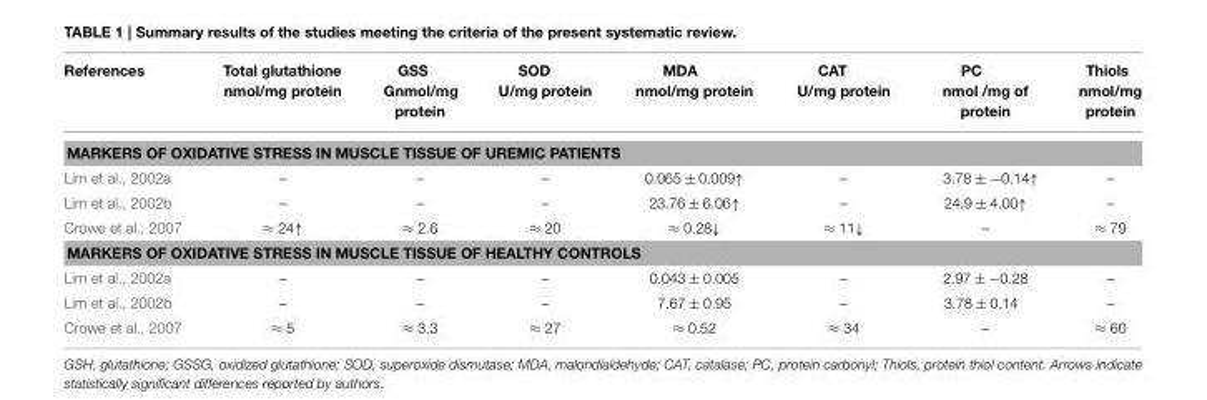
<table><thead><tr><td>References</td><td>Total glutathione nmol/mg protein</td><td>GSS Gnmol/mg protein</td><td>SOD U/mg protein</td><td>MDA nmol/mg protein</td><td>CAT U/mg protein</td><td>PC nmol /mg of protein</td><td>Thiols nmol/mg protein</td></tr></thead><tbody><tr><td colspan="8">MARKERS OF OXIDATIVE STRESS IN MUSCLE TISSUE OF UREMIC PATIENTS</td></tr><tr><td>Lim et al., 2002a</td><td>–</td><td>–</td><td>–</td><td>0.065 ± 0.009↑</td><td>–</td><td>3.78 ± −0.14↑</td><td>–</td></tr><tr><td>Lim et al., 2002b</td><td>–</td><td>–</td><td>–</td><td>23.76 ± 6.06↑</td><td>–</td><td>24.9 ± 4.00↑</td><td>–</td></tr><tr><td>Crowe et al., 2007</td><td>≈ 24↑</td><td>≈ 2.6</td><td>≈ 20</td><td>≈ 0.28↓</td><td>≈ 11↓</td><td>–</td><td>≈ 79</td></tr><tr><td colspan="8">MARKERS OF OXIDATIVE STRESS IN MUSCLE TISSUE OF HEALTHY CONTROLS</td></tr><tr><td>Lim et al., 2002a</td><td>–</td><td>–</td><td>–</td><td>0.043 ± 0.005</td><td>–</td><td>2.97 ± −0.28</td><td>–</td></tr><tr><td>Lim et al., 2002b</td><td>–</td><td>–</td><td>–</td><td>7.67 ± 0.95</td><td>–</td><td>3.78 ± 0.14</td><td>–</td></tr><tr><td>Crowe et al., 2007</td><td>≈ 5</td><td>≈ 3.3</td><td>≈ 27</td><td>≈ 0.52</td><td>≈ 34</td><td>–</td><td>≈ 60</td></tr></tbody></table>